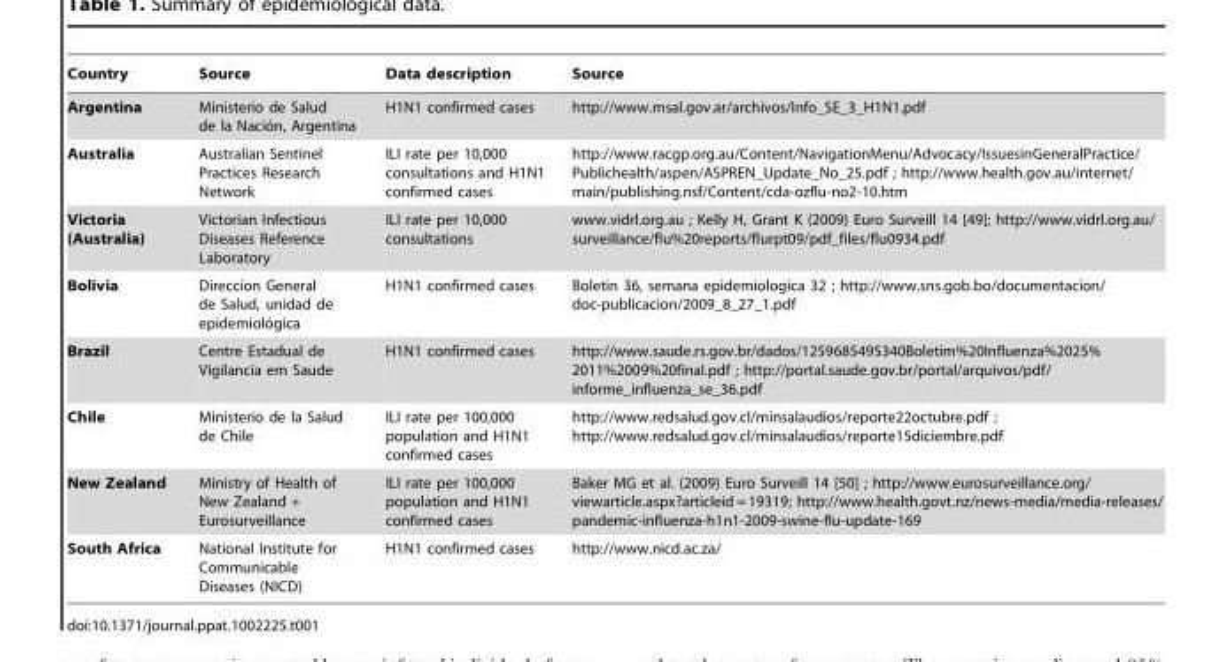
<table><thead><tr><td>Country</td><td>Source</td><td>Data description</td><td>Source</td></tr></thead><tbody><tr><td>Argentina</td><td>Ministerio de Salud de la Nacio´n, Argentina</td><td>H1N1 confirmed cases</td><td>http://www.msal.gov.ar/archivos/Info_SE_3_H1N1.pdf</td></tr><tr><td>Australia</td><td>Australian Sentinel Practices Research Network</td><td>ILI rate per 10,000 consultations and H1N1 confirmed cases</td><td>http://www.racgp.org.au/Content/NavigationMenu/Advocacy/IssuesinGeneralPractice/ Publichealth/aspen/ASPREN_Update_No_25.pdf ; http://www.health.gov.au/internet/ main/publishing.nsf/Content/cda-ozflu-no2-10.htm</td></tr><tr><td>Victoria (Australia)</td><td>Victorian Infectious Diseases Reference Laboratory</td><td>ILI rate per 10,000 consultations</td><td>www.vidrl.org.au ; Kelly H, Grant K (2009) Euro Surveill 14 [49]; http://www.vidrl.org.au/ surveillance/flu%20reports/flurpt09/pdf_files/flu0934.pdf</td></tr><tr><td>Bolivia</td><td>Direccion General de Salud, unidad de epidemiolo´gica</td><td>H1N1 confirmed cases</td><td>Boletin 36, semana epidemiologica 32 ; http://www.sns.gob.bo/documentacion/ doc-publicacion/2009_8_27_1.pdf</td></tr><tr><td>Brazil</td><td>Centre Estadual de Vigilancia em Saude</td><td>H1N1 confirmed cases</td><td>http://www.saude.rs.gov.br/dados/1259685495340Boletim%20Influenza%2025% 2011%2009%20final.pdf ; http://portal.saude.gov.br/portal/arquivos/pdf/ informe_influenza_se_36.pdf</td></tr><tr><td>Chile</td><td>Ministerio de la Salud de Chile</td><td>ILI rate per 100,000 population and H1N1 confirmed cases</td><td>http://www.redsalud.gov.cl/minsalaudios/reporte22octubre.pdf ; http://www.redsalud.gov.cl/minsalaudios/reporte15diciembre.pdf</td></tr><tr><td>New Zealand</td><td>Ministry of Health of New Zealand + Eurosurveillance</td><td>ILI rate per 100,000 population and H1N1 confirmed cases</td><td>Baker MG et al. (2009) Euro Surveill 14 [50] ; http://www.eurosurveillance.org/ viewarticle.aspx?articleid = 19319; http://www.health.govt.nz/news-media/media-releases/ pandemic-influenza-h1n1-2009-swine-flu-update-169</td></tr><tr><td>South Africa</td><td>National Institute for Communicable Diseases (NICD)</td><td>H1N1 confirmed cases</td><td>http://www.nicd.ac.za/</td></tr></tbody></table>